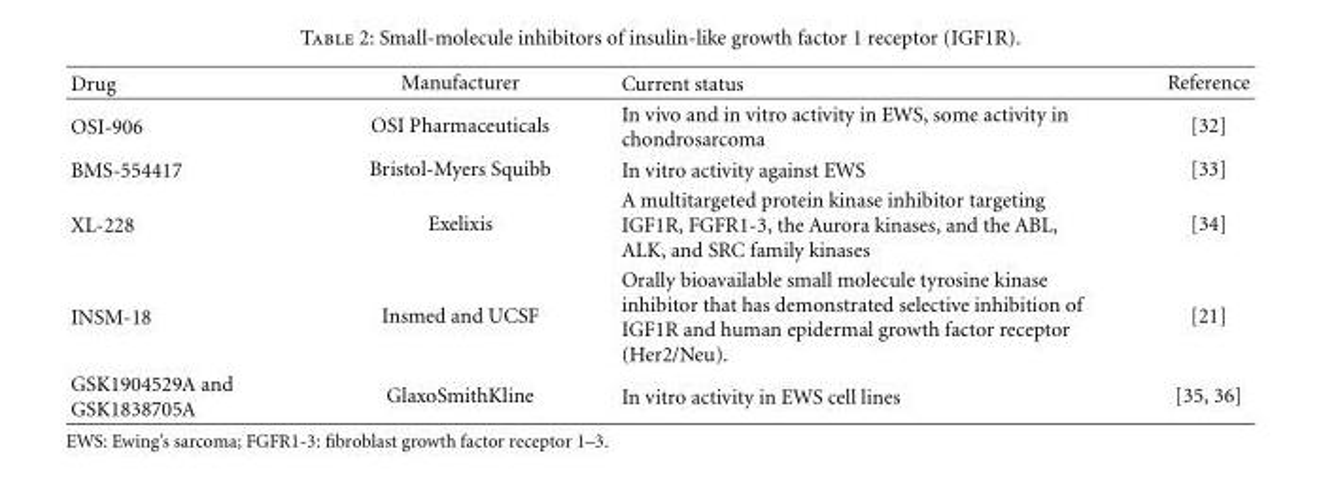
<table><thead><tr><td>Drug</td><td>Manufacturer</td><td>Current status</td><td>Reference</td></tr></thead><tbody><tr><td>OSI-906</td><td>OSI Pharmaceuticals</td><td>In vivo and in vitro activity in EWS, some activity in chondrosarcoma</td><td>[32]</td></tr><tr><td>BMS-554417</td><td>Bristol-Myers Squibb</td><td>In vitro activity against EWS</td><td>[33]</td></tr><tr><td>XL-228</td><td>Exelixis</td><td>A multitargeted protein kinase inhibitor targeting IGF1R, FGFR1-3, the Aurora kinases, and the ABL, ALK, and SRC family kinases</td><td>[34]</td></tr><tr><td>INSM-18</td><td>Insmed and UCSF</td><td>Orally bioavailable small molecule tyrosine kinase inhibitor that has demonstrated selective inhibition of IGF1R and human epidermal growth factor receptor (Her2/Neu).</td><td>[21]</td></tr><tr><td>GSK1904529A and GSK1838705A</td><td>GlaxoSmithKline</td><td>In vitro activity in EWS cell lines</td><td>[35, 36]</td></tr></tbody></table>